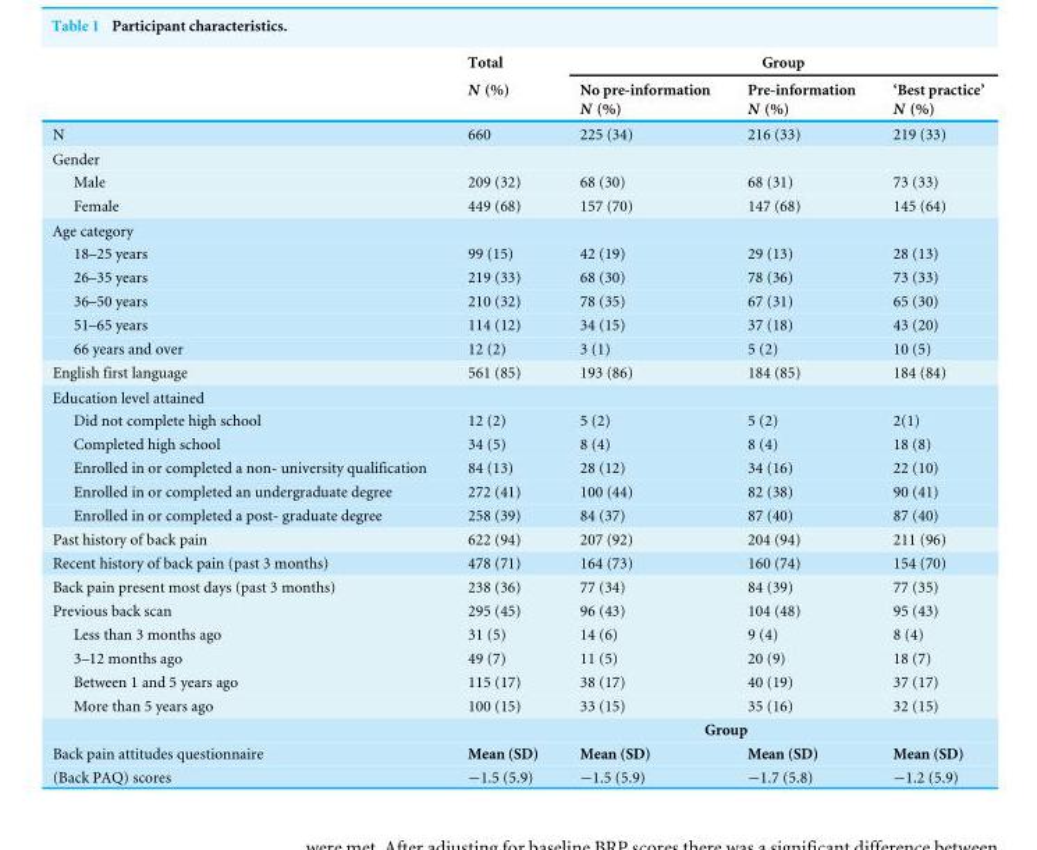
<table><thead><tr><td rowspan="2"></td><td rowspan="2">Total N (%)</td><td colspan="3">Group</td></tr><tr><td>No pre-information N (%)</td><td>Pre-information N (%)</td><td>‘Best practice’ N (%)</td></tr></thead><tbody><tr><td>N</td><td>660</td><td>225 (34)</td><td>216 (33)</td><td>219 (33)</td></tr><tr><td colspan="5">Gender</td></tr><tr><td>Male</td><td>209 (32)</td><td>68 (30)</td><td>68 (31)</td><td>73 (33)</td></tr><tr><td>Female</td><td>449 (68)</td><td>157 (70)</td><td>147 (68)</td><td>145 (64)</td></tr><tr><td colspan="5">Age category</td></tr><tr><td>18–25 years</td><td>99 (15)</td><td>42 (19)</td><td>29 (13)</td><td>28 (13)</td></tr><tr><td>26–35 years</td><td>219 (33)</td><td>68 (30)</td><td>78 (36)</td><td>73 (33)</td></tr><tr><td>36–50 years</td><td>210 (32)</td><td>78 (35)</td><td>67 (31)</td><td>65 (30)</td></tr><tr><td>51–65 years</td><td>114 (12)</td><td>34 (15)</td><td>37 (18)</td><td>43 (20)</td></tr><tr><td>66 years and over</td><td>12 (2)</td><td>3 (1)</td><td>5 (2)</td><td>10 (5)</td></tr><tr><td>English first language</td><td>561 (85)</td><td>193 (86)</td><td>184 (85)</td><td>184 (84)</td></tr><tr><td colspan="5">Education level attained</td></tr><tr><td>Did not complete high school</td><td>12 (2)</td><td>5 (2)</td><td>5 (2)</td><td>2(1)</td></tr><tr><td>Completed high school</td><td>34 (5)</td><td>8 (4)</td><td>8 (4)</td><td>18 (8)</td></tr><tr><td>Enrolled in or completed a non- university qualification</td><td>84 (13)</td><td>28 (12)</td><td>34 (16)</td><td>22 (10)</td></tr><tr><td>Enrolled in or completed an undergraduate degree</td><td>272 (41)</td><td>100 (44)</td><td>82 (38)</td><td>90 (41)</td></tr><tr><td>Enrolled in or completed a post- graduate degree</td><td>258 (39)</td><td>84 (37)</td><td>87 (40)</td><td>87 (40)</td></tr><tr><td>Past history of back pain</td><td>622 (94)</td><td>207 (92)</td><td>204 (94)</td><td>211 (96)</td></tr><tr><td>Recent history of back pain (past 3 months)</td><td>478 (71)</td><td>164 (73)</td><td>160 (74)</td><td>154 (70)</td></tr><tr><td>Back pain present most days (past 3 months)</td><td>238 (36)</td><td>77 (34)</td><td>84 (39)</td><td>77 (35)</td></tr><tr><td>Previous back scan</td><td>295 (45)</td><td>96 (43)</td><td>104 (48)</td><td>95 (43)</td></tr><tr><td>Less than 3 months ago</td><td>31 (5)</td><td>14 (6)</td><td>9 (4)</td><td>8 (4)</td></tr><tr><td>3–12 months ago</td><td>49 (7)</td><td>11 (5)</td><td>20 (9)</td><td>18 (7)</td></tr><tr><td>Between 1 and 5 years ago</td><td>115 (17)</td><td>38 (17)</td><td>40 (19)</td><td>37 (17)</td></tr><tr><td rowspan="2">More than 5 years ago</td><td>100 (15)</td><td>33 (15)</td><td>35 (16)</td><td>32 (15)</td></tr><tr><td colspan="4">Group</td></tr><tr><td>Back pain attitudes questionnaire</td><td>Mean (SD)</td><td>Mean (SD)</td><td>Mean (SD)</td><td>Mean (SD)</td></tr><tr><td>(Back PAQ) scores</td><td>−1.5 (5.9)</td><td>−1.5 (5.9)</td><td>−1.7 (5.8)</td><td>−1.2 (5.9)</td></tr></tbody></table>